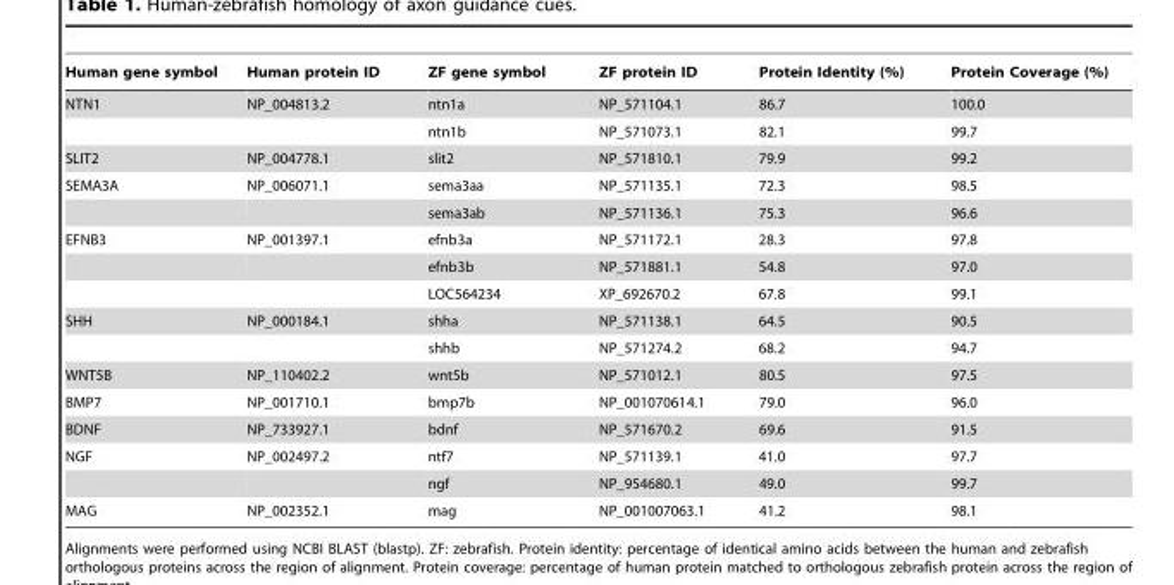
<table><thead><tr><td>Human gene symbol</td><td>Human protein ID</td><td>ZF gene symbol</td><td>ZF protein ID</td><td>Protein Identity (%)</td><td>Protein Coverage (%)</td></tr></thead><tbody><tr><td rowspan="2">NTN1</td><td>NP_004813.2</td><td>ntn1a</td><td>NP_571104.1</td><td>86.7</td><td>100.0</td></tr><tr><td></td><td>ntn1b</td><td>NP_571073.1</td><td>82.1</td><td>99.7</td></tr><tr><td>SLIT2</td><td>NP_004778.1</td><td>slit2</td><td>NP_571810.1</td><td>79.9</td><td>99.2</td></tr><tr><td rowspan="2">SEMA3A</td><td>NP_006071.1</td><td>sema3aa</td><td>NP_571135.1</td><td>72.3</td><td>98.5</td></tr><tr><td></td><td>sema3ab</td><td>NP_571136.1</td><td>75.3</td><td>96.6</td></tr><tr><td rowspan="3">EFNB3</td><td>NP_001397.1</td><td>efnb3a</td><td>NP_571172.1</td><td>28.3</td><td>97.8</td></tr><tr><td></td><td>efnb3b</td><td>NP_571881.1</td><td>54.8</td><td>97.0</td></tr><tr><td></td><td>LOC564234</td><td>XP_692670.2</td><td>67.8</td><td>99.1</td></tr><tr><td rowspan="2">SHH</td><td>NP_000184.1</td><td>shha</td><td>NP_571138.1</td><td>64.5</td><td>90.5</td></tr><tr><td></td><td>shhb</td><td>NP_571274.2</td><td>68.2</td><td>94.7</td></tr><tr><td>WNT5B</td><td>NP_110402.2</td><td>wnt5b</td><td>NP_571012.1</td><td>80.5</td><td>97.5</td></tr><tr><td>BMP7</td><td>NP_001710.1</td><td>bmp7b</td><td>NP_001070614.1</td><td>79.0</td><td>96.0</td></tr><tr><td>BDNF</td><td>NP_733927.1</td><td>bdnf</td><td>NP_571670.2</td><td>69.6</td><td>91.5</td></tr><tr><td rowspan="2">NGF</td><td>NP_002497.2</td><td>ntf7</td><td>NP_571139.1</td><td>41.0</td><td>97.7</td></tr><tr><td></td><td>ngf</td><td>NP_954680.1</td><td>49.0</td><td>99.7</td></tr><tr><td>MAG</td><td>NP_002352.1</td><td>mag</td><td>NP_001007063.1</td><td>41.2</td><td>98.1</td></tr></tbody></table>